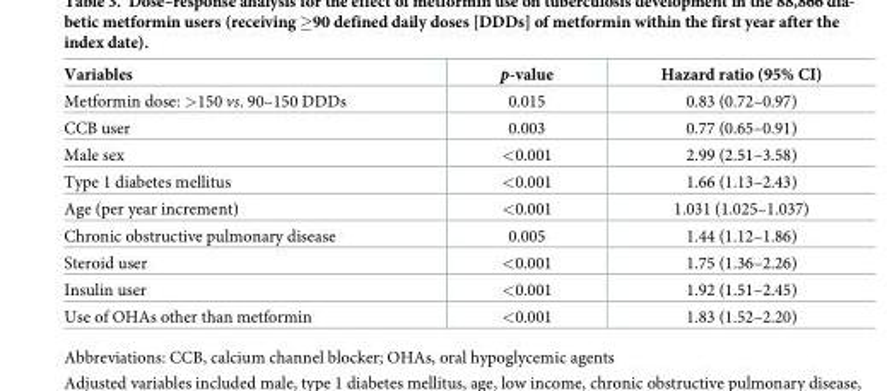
<table><thead><tr><td>Variables</td><td>p-value</td><td>Hazard ratio (95% CI)</td></tr></thead><tbody><tr><td>Metformin dose: &gt;150 vs. 90–150 DDDs</td><td>0.015</td><td>0.83 (0.72–0.97)</td></tr><tr><td>CCB user</td><td>0.003</td><td>0.77 (0.65–0.91)</td></tr><tr><td>Male sex</td><td>&lt;0.001</td><td>2.99 (2.51–3.58)</td></tr><tr><td>Type 1 diabetes mellitus</td><td>&lt;0.001</td><td>1.66 (1.13–2.43)</td></tr><tr><td>Age (per year increment)</td><td>&lt;0.001</td><td>1.031 (1.025–1.037)</td></tr><tr><td>Chronic obstructive pulmonary disease</td><td>0.005</td><td>1.44 (1.12–1.86)</td></tr><tr><td>Steroid user</td><td>&lt;0.001</td><td>1.75 (1.36–2.26)</td></tr><tr><td>Insulin user</td><td>&lt;0.001</td><td>1.92 (1.51–2.45)</td></tr><tr><td>Use of OHAs other than metformin</td><td>&lt;0.001</td><td>1.83 (1.52–2.20)</td></tr></tbody></table>